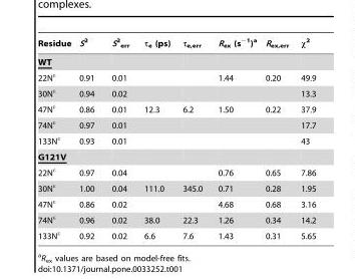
<table><thead><tr><td>Residue</td><td>S<sup>2</sup></td><td>S<sup>2</sup> <sub>err</sub></td><td>τ<sub>e</sub> (ps)</td><td>τ<sub>e,err</sub></td><td>R<sub>ex</sub> (s<sup>−1</sup>)<sup>a</sup></td><td>R<sub>ex,err</sub></td><td>χ<sup>2</sup></td></tr></thead><tbody><tr><td colspan="8">WT</td></tr><tr><td>22N<sup>ε</sup></td><td>0.91</td><td>0.01</td><td></td><td></td><td>1.44</td><td>0.20</td><td>49.9</td></tr><tr><td>30N<sup>ε</sup></td><td>0.94</td><td>0.02</td><td></td><td></td><td></td><td></td><td>13.3</td></tr><tr><td>47N<sup>ε</sup></td><td>0.86</td><td>0.01</td><td>12.3</td><td>6.2</td><td>1.50</td><td>0.22</td><td>37.9</td></tr><tr><td>74N<sup>ε</sup></td><td>0.97</td><td>0.01</td><td></td><td></td><td></td><td></td><td>17.7</td></tr><tr><td>133N<sup>ε</sup></td><td>0.93</td><td>0.01</td><td></td><td></td><td></td><td></td><td>43</td></tr><tr><td colspan="8">G121V</td></tr><tr><td>22N<sup>ε</sup></td><td>0.97</td><td>0.04</td><td></td><td></td><td>0.76</td><td>0.65</td><td>7.86</td></tr><tr><td>30N<sup>ε</sup></td><td>1.00</td><td>0.04</td><td>111.0</td><td>345.0</td><td>0.71</td><td>0.28</td><td>1.95</td></tr><tr><td>47N<sup>ε</sup></td><td>0.86</td><td>0.02</td><td></td><td></td><td>4.68</td><td>0.68</td><td>3.16</td></tr><tr><td>74N<sup>ε</sup></td><td>0.96</td><td>0.02</td><td>38.0</td><td>22.3</td><td>1.26</td><td>0.34</td><td>14.2</td></tr><tr><td>133N<sup>ε</sup></td><td>0.92</td><td>0.02</td><td>6.6</td><td>7.6</td><td>1.43</td><td>0.31</td><td>5.65</td></tr></tbody></table>